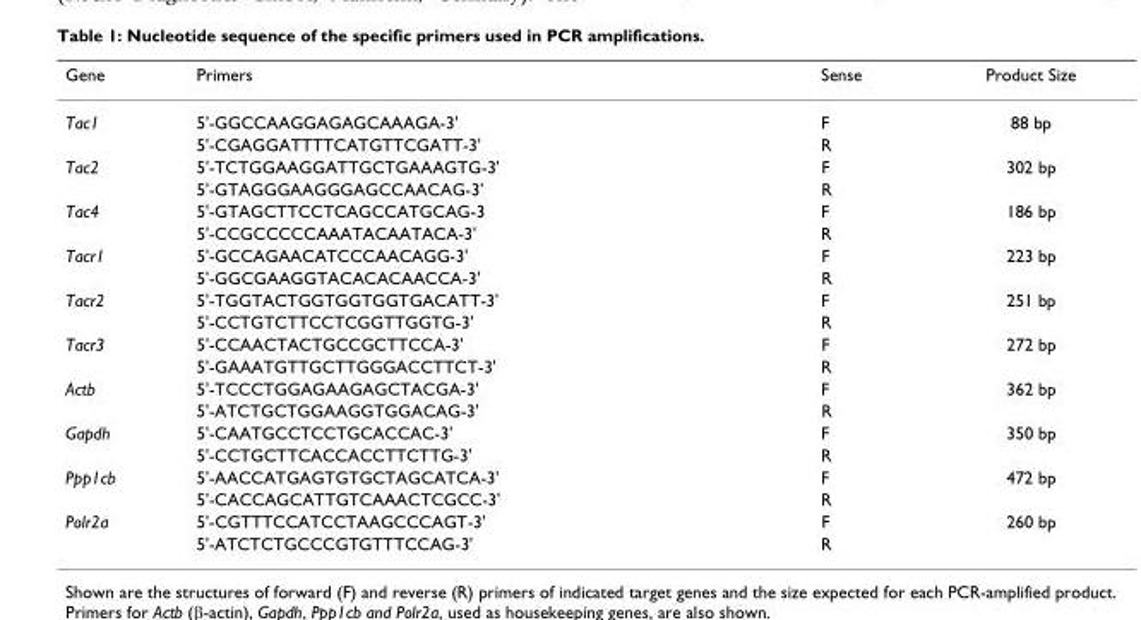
<table><thead><tr><td>Gene</td><td>Primers</td><td>Sense</td><td>Product Size</td></tr></thead><tbody><tr><td rowspan="2">Tac1</td><td>5&#x27;-GGCCAAGGAGAGCAAAGA-3&#x27;</td><td>F</td><td>88 bp</td></tr><tr><td>5&#x27;-CGAGGATTTTCATGTTCGATT-3&#x27;</td><td>R</td><td></td></tr><tr><td rowspan="2">Tac2</td><td>5&#x27;-TCTGGAAGGATTGCTGAAAGTG-3&#x27;</td><td>F</td><td>302 bp</td></tr><tr><td>5&#x27;-GTAGGGAAGGGAGCCAACAG-3&#x27;</td><td>R</td><td></td></tr><tr><td rowspan="2">Tac4</td><td>5&#x27;-GTAGCTTCCTCAGCCATGCAG-3</td><td>F</td><td>186 bp</td></tr><tr><td>5&#x27;-CCGCCCCCAAATACAATACA-3&#x27;</td><td>R</td><td></td></tr><tr><td rowspan="2">Tacr1</td><td>5&#x27;-GCCAGAACATCCCAACAGG-3&#x27;</td><td>F</td><td>223 bp</td></tr><tr><td>5&#x27;-GGCGAAGGTACACACAACCA-3&#x27;</td><td>R</td><td></td></tr><tr><td rowspan="2">Tacr2</td><td>5&#x27;-TGGTACTGGTGGTGGTGACATT-3&#x27;</td><td>F</td><td>251 bp</td></tr><tr><td>5&#x27;-CCTGTCTTCCTCGGTTGGTG-3&#x27;</td><td>R</td><td></td></tr><tr><td rowspan="2">Tacr3</td><td>5&#x27;-CCAACTACTGCCGCTTCCA-3&#x27;</td><td>F</td><td>272 bp</td></tr><tr><td>5&#x27;-GAAATGTTGCTTGGGACCTTCT-3&#x27;</td><td>R</td><td></td></tr><tr><td rowspan="2">Actb</td><td>5&#x27;-TCCCTGGAGAAGAGCTACGA-3&#x27;</td><td>F</td><td>362 bp</td></tr><tr><td>5&#x27;-ATCTGCTGGAAGGTGGACAG-3&#x27;</td><td>R</td><td></td></tr><tr><td rowspan="2">Gapdh</td><td>5&#x27;-CAATGCCTCCTGCACCAC-3&#x27;</td><td>F</td><td>350 bp</td></tr><tr><td>5&#x27;-CCTGCTTCACCACCTTCTTG-3&#x27;</td><td>R</td><td></td></tr><tr><td rowspan="2">Ppp1cb</td><td>5&#x27;-AACCATGAGTGTGCTAGCATCA-3&#x27;</td><td>F</td><td>472 bp</td></tr><tr><td>5&#x27;-CACCAGCATTGTCAAACTCGCC-3&#x27;</td><td>R</td><td></td></tr><tr><td rowspan="2">Polr2a</td><td>5&#x27;-CGTTTCCATCCTAAGCCCAGT-3&#x27;</td><td>F</td><td>260 bp</td></tr><tr><td>5&#x27;-ATCTCTGCCCGTGTTTCCAG-3&#x27;</td><td>R</td><td></td></tr></tbody></table>